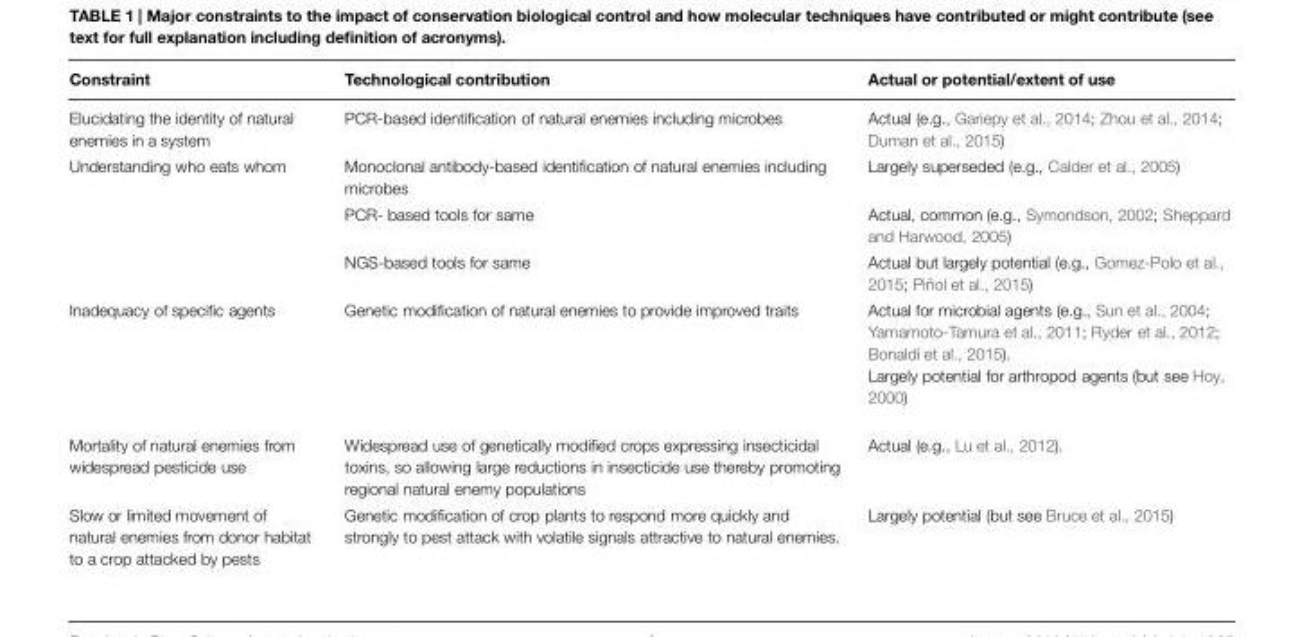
<table><thead><tr><td>Constraint</td><td>Technological contribution</td><td>Actual or potential/extent of use</td></tr></thead><tbody><tr><td>Elucidating the identity of natural enemies in a system</td><td>PCR-based identification of natural enemies including microbes</td><td>Actual (e.g., Gariepy et al., 2014; Zhou et al., 2014; Duman et al., 2015)</td></tr><tr><td rowspan="3">Understanding who eats whom</td><td>Monoclonal antibody-based identification of natural enemies including microbes</td><td>Largely superseded (e.g., Calder et al., 2005)</td></tr><tr><td>PCR- based tools for same</td><td>Actual, common (e.g., Symondson, 2002; Sheppard and Harwood, 2005)</td></tr><tr><td>NGS-based tools for same</td><td>Actual but largely potential (e.g., Gomez-Polo et al., 2015; Piñol et al., 2015)</td></tr><tr><td>Inadequacy of specific agents</td><td>Genetic modification of natural enemies to provide improved traits</td><td>Actual for microbial agents (e.g., Sun et al., 2004; Yamamoto-Tamura et al., 2011; Ryder et al., 2012; Bonaldi et al., 2015). Largely potential for arthropod agents (but see Hoy, 2000)</td></tr><tr><td>Mortality of natural enemies from widespread pesticide use</td><td>Widespread use of genetically modified crops expressing insecticidal toxins, so allowing large reductions in insecticide use thereby promoting regional natural enemy populations</td><td>Actual (e.g., Lu et al., 2012).</td></tr><tr><td>Slow or limited movement of natural enemies from donor habitat to a crop attacked by pests</td><td>Genetic modification of crop plants to respond more quickly and strongly to pest attack with volatile signals attractive to natural enemies.</td><td>Largely potential (but see Bruce et al., 2015)</td></tr></tbody></table>